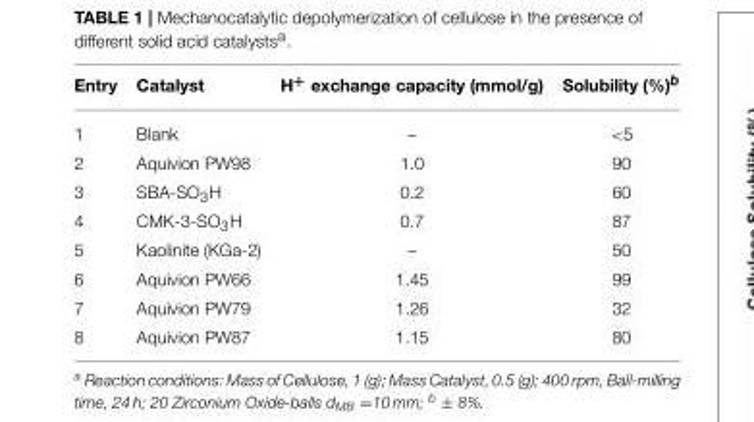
<table><thead><tr><td>Entry</td><td>Catalyst</td><td>H<sup>+</sup> exchange capacity (mmol/g)</td><td>Solubility (%)<sup>b</sup></td></tr></thead><tbody><tr><td>1</td><td>Blank</td><td>–</td><td>&lt;5</td></tr><tr><td>2</td><td>Aquivion PW98</td><td>1.0</td><td>90</td></tr><tr><td>3</td><td>SBA-SO<sub>3</sub>H</td><td>0.2</td><td>60</td></tr><tr><td>4</td><td>CMK-3-SO<sub>3</sub>H</td><td>0.7</td><td>87</td></tr><tr><td>5</td><td>Kaolinite (KGa-2)</td><td>–</td><td>50</td></tr><tr><td>6</td><td>Aquivion PW66</td><td>1.45</td><td>99</td></tr><tr><td>7</td><td>Aquivion PW79</td><td>1.26</td><td>32</td></tr><tr><td>8</td><td>Aquivion PW87</td><td>1.15</td><td>80</td></tr></tbody></table>